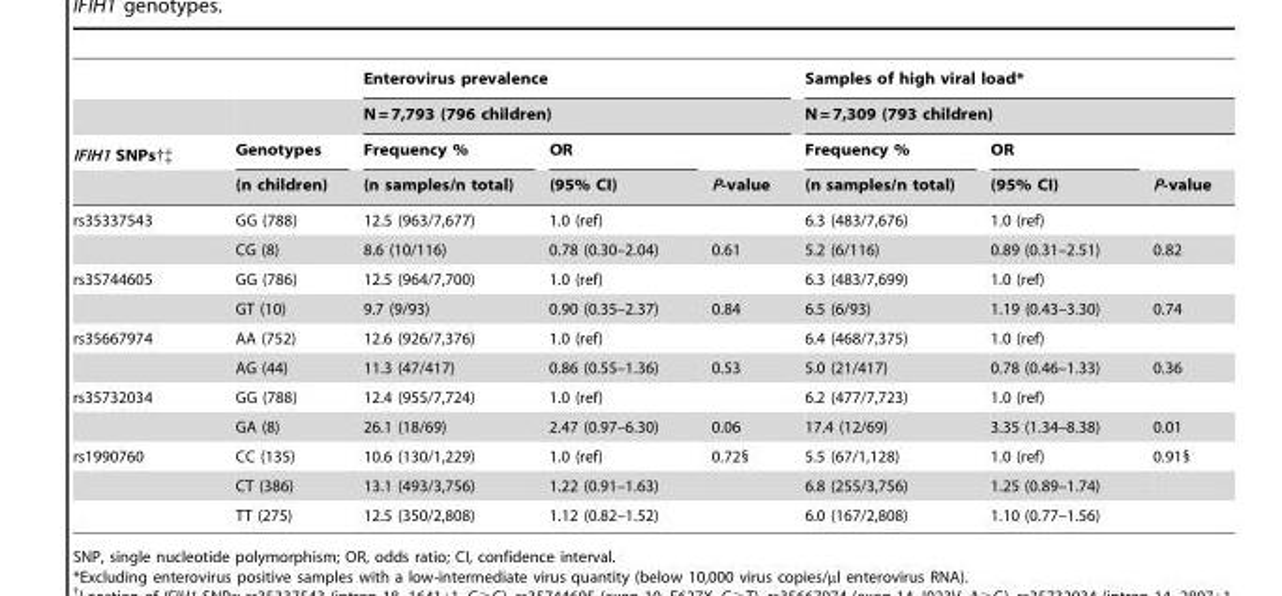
<table><thead><tr><td rowspan="4">IFIH1 SNPs†‡</td><td rowspan="4">Genotypes (n children)</td><td rowspan="2" colspan="3">Enterovirus prevalence N = 7,793 (796 children)</td><td rowspan="2" colspan="3">Samples of high viral load* N = 7,309 (793 children)</td></tr><tr></tr><tr><td rowspan="2">Frequency % (n samples/n total)</td><td rowspan="2">OR (95% CI)</td><td rowspan="2">P-value</td><td rowspan="2">Frequency % (n samples/n total)</td><td rowspan="2">OR (95% CI)</td><td rowspan="2">P-value</td></tr><tr></tr></thead><tbody><tr><td rowspan="2">rs35337543</td><td>GG (788)</td><td>12.5 (963/7,677)</td><td>1.0 (ref)</td><td></td><td>6.3 (483/7,676)</td><td>1.0 (ref)</td><td></td></tr><tr><td>CG (8)</td><td>8.6 (10/116)</td><td>0.78 (0.30–2.04)</td><td>0.61</td><td>5.2 (6/116)</td><td>0.89 (0.31–2.51)</td><td>0.82</td></tr><tr><td rowspan="2">rs35744605</td><td>GG (786)</td><td>12.5 (964/7,700)</td><td>1.0 (ref)</td><td></td><td>6.3 (483/7,699)</td><td>1.0 (ref)</td><td></td></tr><tr><td>GT (10)</td><td>9.7 (9/93)</td><td>0.90 (0.35–2.37)</td><td>0.84</td><td>6.5 (6/93)</td><td>1.19 (0.43–3.30)</td><td>0.74</td></tr><tr><td rowspan="2">rs35667974</td><td>AA (752)</td><td>12.6 (926/7,376)</td><td>1.0 (ref)</td><td></td><td>6.4 (468/7,375)</td><td>1.0 (ref)</td><td></td></tr><tr><td>AG (44)</td><td>11.3 (47/417)</td><td>0.86 (0.55–1.36)</td><td>0.53</td><td>5.0 (21/417)</td><td>0.78 (0.46–1.33)</td><td>0.36</td></tr><tr><td rowspan="2">rs35732034</td><td>GG (788)</td><td>12.4 (955/7,724)</td><td>1.0 (ref)</td><td></td><td>6.2 (477/7,723)</td><td>1.0 (ref)</td><td></td></tr><tr><td>GA (8)</td><td>26.1 (18/69)</td><td>2.47 (0.97–6.30)</td><td>0.06</td><td>17.4 (12/69)</td><td>3.35 (1.34–8.38)</td><td>0.01</td></tr><tr><td rowspan="3">rs1990760</td><td>CC (135)</td><td>10.6 (130/1,229)</td><td>1.0 (ref)</td><td>0.72§</td><td>5.5 (67/1,128)</td><td>1.0 (ref)</td><td>0.91§</td></tr><tr><td>CT (386)</td><td>13.1 (493/3,756)</td><td>1.22 (0.91–1.63)</td><td></td><td>6.8 (255/3,756)</td><td>1.25 (0.89–1.74)</td><td></td></tr><tr><td>TT (275)</td><td>12.5 (350/2,808)</td><td>1.12 (0.82–1.52)</td><td></td><td>6.0 (167/2,808)</td><td>1.10 (0.77–1.56)</td><td></td></tr></tbody></table>